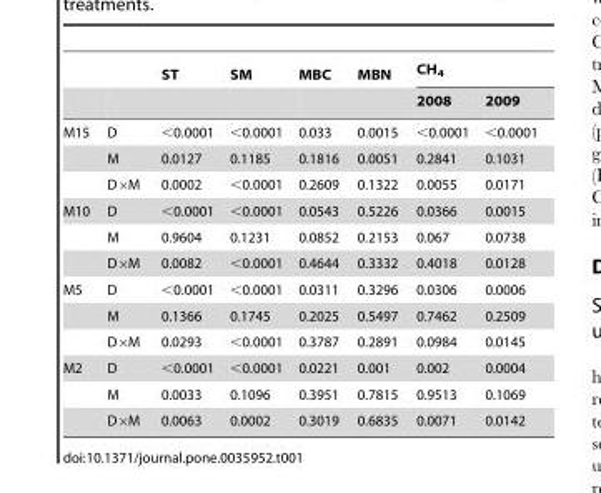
<table><thead><tr><td rowspan="2"></td><td rowspan="2"></td><td rowspan="2">ST</td><td rowspan="2">SM</td><td rowspan="2">MBC</td><td rowspan="2">MBN</td><td colspan="2">CH<sub>4</sub></td></tr><tr><td>2008</td><td>2009</td></tr></thead><tbody><tr><td rowspan="3">M15</td><td>D</td><td>&lt;0.0001</td><td>&lt;0.0001</td><td>0.033</td><td>0.0015</td><td>&lt;0.0001</td><td>&lt;0.0001</td></tr><tr><td>M</td><td>0.0127</td><td>0.1185</td><td>0.1816</td><td>0.0051</td><td>0.2841</td><td>0.1031</td></tr><tr><td>D×M</td><td>0.0002</td><td>&lt;0.0001</td><td>0.2609</td><td>0.1322</td><td>0.0055</td><td>0.0171</td></tr><tr><td rowspan="3">M10</td><td>D</td><td>&lt;0.0001</td><td>&lt;0.0001</td><td>0.0543</td><td>0.5226</td><td>0.0366</td><td>0.0015</td></tr><tr><td>M</td><td>0.9604</td><td>0.1231</td><td>0.0852</td><td>0.2153</td><td>0.067</td><td>0.0738</td></tr><tr><td>D×M</td><td>0.0082</td><td>&lt;0.0001</td><td>0.4644</td><td>0.3332</td><td>0.4018</td><td>0.0128</td></tr><tr><td rowspan="3">M5</td><td>D</td><td>&lt;0.0001</td><td>&lt;0.0001</td><td>0.0311</td><td>0.3296</td><td>0.0306</td><td>0.0006</td></tr><tr><td>M</td><td>0.1366</td><td>0.1745</td><td>0.2025</td><td>0.5497</td><td>0.7462</td><td>0.2509</td></tr><tr><td>D×M</td><td>0.0293</td><td>&lt;0.0001</td><td>0.3787</td><td>0.2891</td><td>0.0984</td><td>0.0145</td></tr><tr><td rowspan="3">M2</td><td>D</td><td>&lt;0.0001</td><td>&lt;0.0001</td><td>0.0221</td><td>0.001</td><td>0.002</td><td>0.0004</td></tr><tr><td>M</td><td>0.0033</td><td>0.1096</td><td>0.3951</td><td>0.7815</td><td>0.9513</td><td>0.1069</td></tr><tr><td>D×M</td><td>0.0063</td><td>0.0002</td><td>0.3019</td><td>0.6835</td><td>0.0071</td><td>0.0142</td></tr></tbody></table>